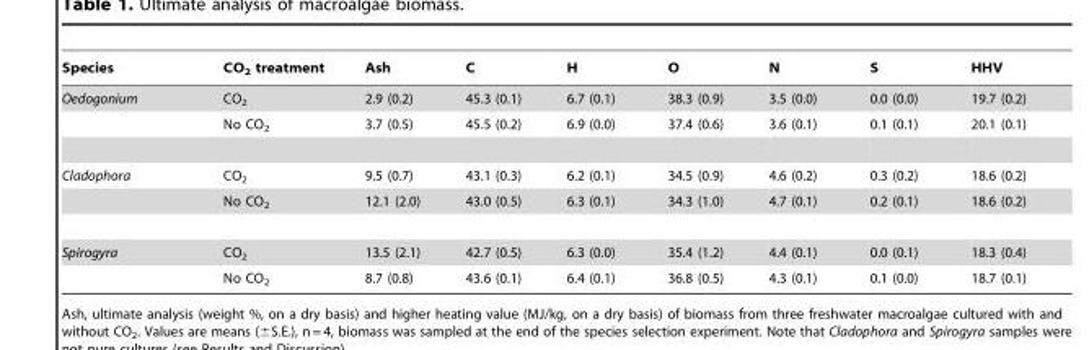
<table><thead><tr><td>Species</td><td>CO<sub>2</sub> treatment</td><td>Ash</td><td>C</td><td>H</td><td>O</td><td>N</td><td>S</td><td>HHV</td></tr></thead><tbody><tr><td rowspan="2">Oedogonium</td><td>CO<sub>2</sub></td><td>2.9 (0.2)</td><td>45.3 (0.1)</td><td>6.7 (0.1)</td><td>38.3 (0.9)</td><td>3.5 (0.0)</td><td>0.0 (0.0)</td><td>19.7 (0.2)</td></tr><tr><td>No CO<sub>2</sub></td><td>3.7 (0.5)</td><td>45.5 (0.2)</td><td>6.9 (0.0)</td><td>37.4 (0.6)</td><td>3.6 (0.1)</td><td>0.1 (0.1)</td><td>20.1 (0.1)</td></tr><tr><td rowspan="2">Cladophora</td><td>CO<sub>2</sub></td><td>9.5 (0.7)</td><td>43.1 (0.3)</td><td>6.2 (0.1)</td><td>34.5 (0.9)</td><td>4.6 (0.2)</td><td>0.3 (0.2)</td><td>18.6 (0.2)</td></tr><tr><td>No CO<sub>2</sub></td><td>12.1 (2.0)</td><td>43.0 (0.5)</td><td>6.3 (0.1)</td><td>34.3 (1.0)</td><td>4.7 (0.1)</td><td>0.2 (0.1)</td><td>18.6 (0.2)</td></tr><tr><td rowspan="2">Spirogyra</td><td>CO<sub>2</sub></td><td>13.5 (2.1)</td><td>42.7 (0.5)</td><td>6.3 (0.0)</td><td>35.4 (1.2)</td><td>4.4 (0.1)</td><td>0.0 (0.1)</td><td>18.3 (0.4)</td></tr><tr><td>No CO<sub>2</sub></td><td>8.7 (0.8)</td><td>43.6 (0.1)</td><td>6.4 (0.1)</td><td>36.8 (0.5)</td><td>4.3 (0.1)</td><td>0.1 (0.0)</td><td>18.7 (0.1)</td></tr></tbody></table>